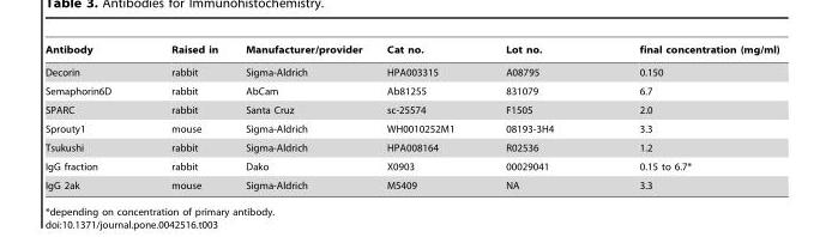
<table><thead><tr><td>Antibody</td><td>Raised in</td><td>Manufacturer/provider</td><td>Cat no.</td><td>Lot no.</td><td>final concentration (mg/ml)</td></tr></thead><tbody><tr><td>Decorin</td><td>rabbit</td><td>Sigma-Aldrich</td><td>HPA003315</td><td>A08795</td><td>0.150</td></tr><tr><td>Semaphorin6D</td><td>rabbit</td><td>AbCam</td><td>Ab81255</td><td>831079</td><td>6.7</td></tr><tr><td>SPARC</td><td>rabbit</td><td>Santa Cruz</td><td>sc-25574</td><td>F1505</td><td>2.0</td></tr><tr><td>Sprouty1</td><td>mouse</td><td>Sigma-Aldrich</td><td>WH0010252M1</td><td>08193-3H4</td><td>3.3</td></tr><tr><td>Tsukushi</td><td>rabbit</td><td>Sigma-Aldrich</td><td>HPA008164</td><td>R02536</td><td>1.2</td></tr><tr><td>IgG fraction</td><td>rabbit</td><td>Dako</td><td>X0903</td><td>00029041</td><td>0.15 to 6.7*</td></tr><tr><td>IgG 2ak</td><td>mouse</td><td>Sigma-Aldrich</td><td>M5409</td><td>NA</td><td>3.3</td></tr></tbody></table>